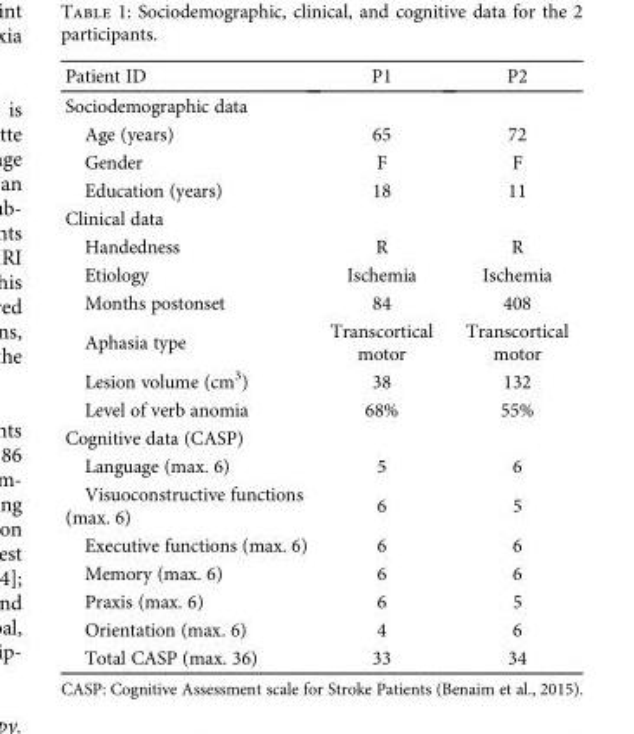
<table><thead><tr><td>Patient ID</td><td>P1</td><td>P2</td></tr></thead><tbody><tr><td colspan="3">Sociodemographic data</td></tr><tr><td>Age (years)</td><td>65</td><td>72</td></tr><tr><td>Gender</td><td>F</td><td>F</td></tr><tr><td>Education (years)</td><td>18</td><td>11</td></tr><tr><td colspan="3">Clinical data</td></tr><tr><td>Handedness</td><td>R</td><td>R</td></tr><tr><td>Etiology</td><td>Ischemia</td><td>Ischemia</td></tr><tr><td>Months postonset</td><td>84</td><td>408</td></tr><tr><td>Aphasia type</td><td>Transcortical motor</td><td>Transcortical motor</td></tr><tr><td>Lesion volume (cm<sup>3</sup>)</td><td>38</td><td>132</td></tr><tr><td>Level of verb anomia</td><td>68%</td><td>55%</td></tr><tr><td colspan="3">Cognitive data (CASP)</td></tr><tr><td>Language (max. 6)</td><td>5</td><td>6</td></tr><tr><td>Visuoconstructive functions (max. 6)</td><td>6</td><td>5</td></tr><tr><td>Executive functions (max. 6)</td><td>6</td><td>6</td></tr><tr><td>Memory (max. 6)</td><td>6</td><td>6</td></tr><tr><td>Praxis (max. 6)</td><td>6</td><td>5</td></tr><tr><td>Orientation (max. 6)</td><td>4</td><td>6</td></tr><tr><td>Total CASP (max. 36)</td><td>33</td><td>34</td></tr></tbody></table>